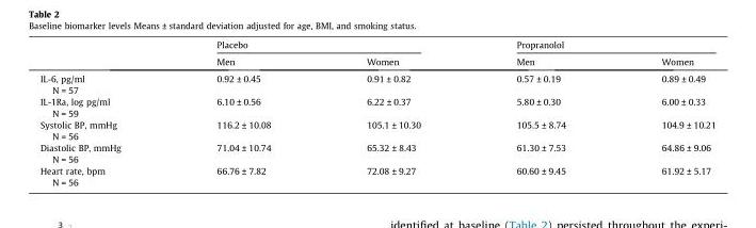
<table><thead><tr><td rowspan="2"></td><td colspan="2">Placebo</td><td colspan="2">Propranolol</td></tr><tr><td>Men</td><td>Women</td><td>Men</td><td>Women</td></tr></thead><tbody><tr><td>IL-6, pg/ml N = 57</td><td>0.92 ± 0.45</td><td>0.91 ± 0.82</td><td>0.57 ± 0.19</td><td>0.89 ± 0.49</td></tr><tr><td>IL-1Ra, log pg/ml N = 59</td><td>6.10 ± 0.56</td><td>6.22 ± 0.37</td><td>5.80 ± 0.30</td><td>6.00 ± 0.33</td></tr><tr><td>Systolic BP, mmHg N = 56</td><td>116.2 ± 10.08</td><td>105.1 ± 10.30</td><td>105.5 ± 8.74</td><td>104.9 ± 10.21</td></tr><tr><td>Diastolic BP, mmHg N = 56</td><td>71.04 ± 10.74</td><td>65.32 ± 8.43</td><td>61.30 ± 7.53</td><td>64.86 ± 9.06</td></tr><tr><td>Heart rate, bpm N = 56</td><td>66.76 ± 7.82</td><td>72.08 ± 9.27</td><td>60.60 ± 9.45</td><td>61.92 ± 5.17</td></tr></tbody></table>